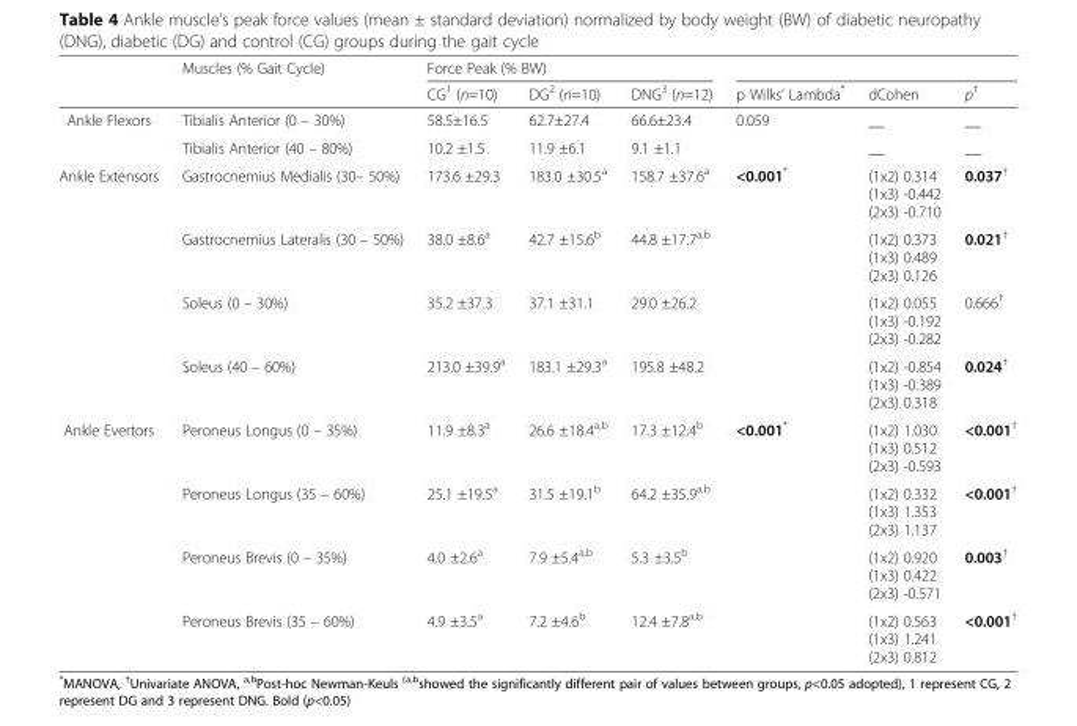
<table><thead><tr><td rowspan="2"></td><td rowspan="2">Muscles (% Gait Cycle)</td><td colspan="3">Force Peak (% BW)</td><td rowspan="2">p Wilks’ Lambda*</td><td rowspan="2">dCohen</td><td rowspan="2">p<sup>†</sup></td></tr><tr><td>CG<sup>1</sup> (n=10)</td><td>DG<sup>2</sup> (n=10)</td><td>DNG<sup>3</sup> (n=12)</td></tr></thead><tbody><tr><td rowspan="2">Ankle Flexors</td><td>Tibialis Anterior (0 – 30%)</td><td>58.5±16.5</td><td>62.7±27.4</td><td>66.6±23.4</td><td rowspan="2">0.059</td><td>__</td><td>__</td></tr><tr><td>Tibialis Anterior (40 – 80%)</td><td>10.2 ±1.5</td><td>11.9 ±6.1</td><td>9.1 ±1.1</td><td>__</td><td>__</td></tr><tr><td rowspan="4">Ankle Extensors</td><td>Gastrocnemius Medialis (30– 50%)</td><td>173.6 ±29.3</td><td>183.0 ±30.5<sup>a</sup></td><td>158.7 ±37.6<sup>a</sup></td><td rowspan="4">&lt;0.001*</td><td>(1x2) 0.314 (1x3) -0.442 (2x3) -0.710</td><td>0.037<sup>†</sup></td></tr><tr><td>Gastrocnemius Lateralis (30 – 50%)</td><td>38.0 ±8.6<sup>a</sup></td><td>42.7 ±15.6<sup>b</sup></td><td>44.8 ±17.7<sup>a,b</sup></td><td>(1x2) 0.373 (1x3) 0.489 (2x3) 0.126</td><td>0.021<sup>†</sup></td></tr><tr><td>Soleus (0 – 30%)</td><td>35.2 ±37.3</td><td>37.1 ±31.1</td><td>29.0 ±26.2</td><td>(1x2) 0.055 (1x3) -0.192 (2x3) -0.282</td><td>0.666<sup>†</sup></td></tr><tr><td>Soleus (40 – 60%)</td><td>213.0 ±39.9<sup>a</sup></td><td>183.1 ±29.3<sup>a</sup></td><td>195.8 ±48.2</td><td>(1x2) -0.854 (1x3) -0.389 (2x3) 0.318</td><td>0.024<sup>†</sup></td></tr><tr><td rowspan="4">Ankle Evertors</td><td>Peroneus Longus (0 – 35%)</td><td>11.9 ±8.3<sup>a</sup></td><td>26.6 ±18.4<sup>a,b</sup></td><td>17.3 ±12.4<sup>b</sup></td><td rowspan="4">&lt;0.001*</td><td>(1x2) 1.030 (1x3) 0.512 (2x3) -0.593</td><td>&lt;0.001<sup>†</sup></td></tr><tr><td>Peroneus Longus (35 – 60%)</td><td>25.1 ±19.5<sup>a</sup></td><td>31.5 ±19.1<sup>b</sup></td><td>64.2 ±35.9<sup>a,b</sup></td><td>(1x2) 0.332 (1x3) 1.353 (2x3) 1.137</td><td>&lt;0.001<sup>†</sup></td></tr><tr><td>Peroneus Brevis (0 – 35%)</td><td>4.0 ±2.6<sup>a</sup></td><td>7.9 ±5.4<sup>a,b</sup></td><td>5.3 ±3.5<sup>b</sup></td><td>(1x2) 0.920 (1x3) 0.422 (2x3) -0.571</td><td>0.003<sup>†</sup></td></tr><tr><td>Peroneus Brevis (35 – 60%)</td><td>4.9 ±3.5<sup>a</sup></td><td>7.2 ±4.6<sup>b</sup></td><td>12.4 ±7.8<sup>a,b</sup></td><td>(1x2) 0.563 (1x3) 1.241 (2x3) 0.812</td><td>&lt;0.001<sup>†</sup></td></tr></tbody></table>